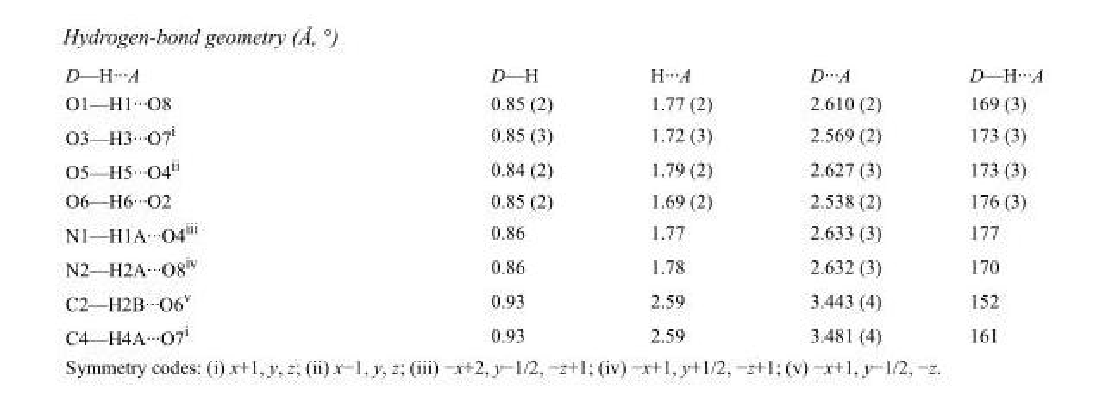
<table><tbody><tr><td>D—H···A</td><td>D—H</td><td>H···A</td><td>D···A</td><td>D—H···A</td></tr><tr><td>O1—H1···O8</td><td>0.85 (2)</td><td>1.77 (2)</td><td>2.610 (2)</td><td>169 (3)</td></tr><tr><td>O3—H3···O7<sup>i</sup></td><td>0.85 (3)</td><td>1.72 (3)</td><td>2.569 (2)</td><td>173 (3)</td></tr><tr><td>O5—H5···O4<sup>ii</sup></td><td>0.84 (2)</td><td>1.79 (2)</td><td>2.627 (3)</td><td>173 (3)</td></tr><tr><td>O6—H6···O2</td><td>0.85 (2)</td><td>1.69 (2)</td><td>2.538 (2)</td><td>176 (3)</td></tr><tr><td>N1—H1A···O4<sup>iii</sup></td><td>0.86</td><td>1.77</td><td>2.633 (3)</td><td>177</td></tr><tr><td>N2—H2A···O8<sup>iv</sup></td><td>0.86</td><td>1.78</td><td>2.632 (3)</td><td>170</td></tr><tr><td>C2—H2B···O6<sup>v</sup></td><td>0.93</td><td>2.59</td><td>3.443 (4)</td><td>152</td></tr><tr><td>C4—H4A···O7<sup>i</sup></td><td>0.93</td><td>2.59</td><td>3.481 (4)</td><td>161</td></tr></tbody></table>